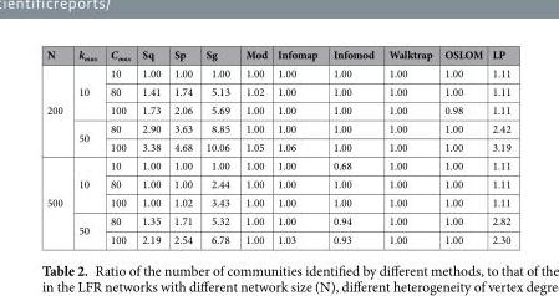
<table><thead><tr><td>N</td><td>k<sub>max</sub></td><td>C<sub>max</sub></td><td>Sq</td><td>Sp</td><td>Sg</td><td>Mod</td><td>Infomap</td><td>Infomod</td><td>Walktrap</td><td>OSLOM</td><td>LP</td></tr></thead><tbody><tr><td rowspan="5">200</td><td rowspan="3">10</td><td>10</td><td>1.00</td><td>1.00</td><td>1.00</td><td>1.00</td><td>1.00</td><td>1.00</td><td>1.00</td><td>1.00</td><td>1.11</td></tr><tr><td>80</td><td>1.41</td><td>1.74</td><td>5.13</td><td>1.02</td><td>1.00</td><td>1.00</td><td>1.00</td><td>1.00</td><td>1.11</td></tr><tr><td>100</td><td>1.73</td><td>2.06</td><td>5.69</td><td>1.00</td><td>1.00</td><td>1.00</td><td>1.00</td><td>0.98</td><td>1.11</td></tr><tr><td rowspan="2">50</td><td>80</td><td>2.90</td><td>3.63</td><td>8.85</td><td>1.00</td><td>1.00</td><td>1.00</td><td>1.00</td><td>1.00</td><td>2.42</td></tr><tr><td>100</td><td>3.38</td><td>4.68</td><td>10.06</td><td>1.05</td><td>1.06</td><td>1.00</td><td>1.00</td><td>1.00</td><td>3.19</td></tr><tr><td rowspan="5">500</td><td rowspan="3">10</td><td>10</td><td>1.00</td><td>1.00</td><td>1.00</td><td>1.00</td><td>1.00</td><td>0.68</td><td>1.00</td><td>1.00</td><td>1.11</td></tr><tr><td>80</td><td>1.00</td><td>1.00</td><td>2.44</td><td>1.00</td><td>1.00</td><td>1.00</td><td>1.00</td><td>1.00</td><td>1.11</td></tr><tr><td>100</td><td>1.00</td><td>1.02</td><td>3.43</td><td>1.00</td><td>1.00</td><td>1.00</td><td>1.00</td><td>1.00</td><td>1.11</td></tr><tr><td rowspan="2">50</td><td>80</td><td>1.35</td><td>1.71</td><td>5.32</td><td>1.00</td><td>1.00</td><td>0.94</td><td>1.00</td><td>1.00</td><td>2.82</td></tr><tr><td>100</td><td>2.19</td><td>2.54</td><td>6.78</td><td>1.00</td><td>1.03</td><td>0.93</td><td>1.00</td><td>1.00</td><td>2.30</td></tr></tbody></table>